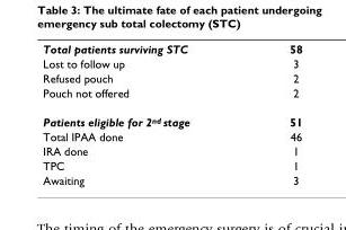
<table><tbody><tr><td>Total patients surviving STC</td><td>58</td></tr><tr><td>Lost to follow up</td><td>3</td></tr><tr><td>Refused pouch</td><td>2</td></tr><tr><td>Pouch not offered</td><td>2</td></tr><tr><td>Patients eligible for 2nd stage</td><td>51</td></tr><tr><td>Total IPAA done</td><td>46</td></tr><tr><td>IRA done</td><td>1</td></tr><tr><td>TPC</td><td>1</td></tr><tr><td>Awaiting</td><td>3</td></tr></tbody></table>